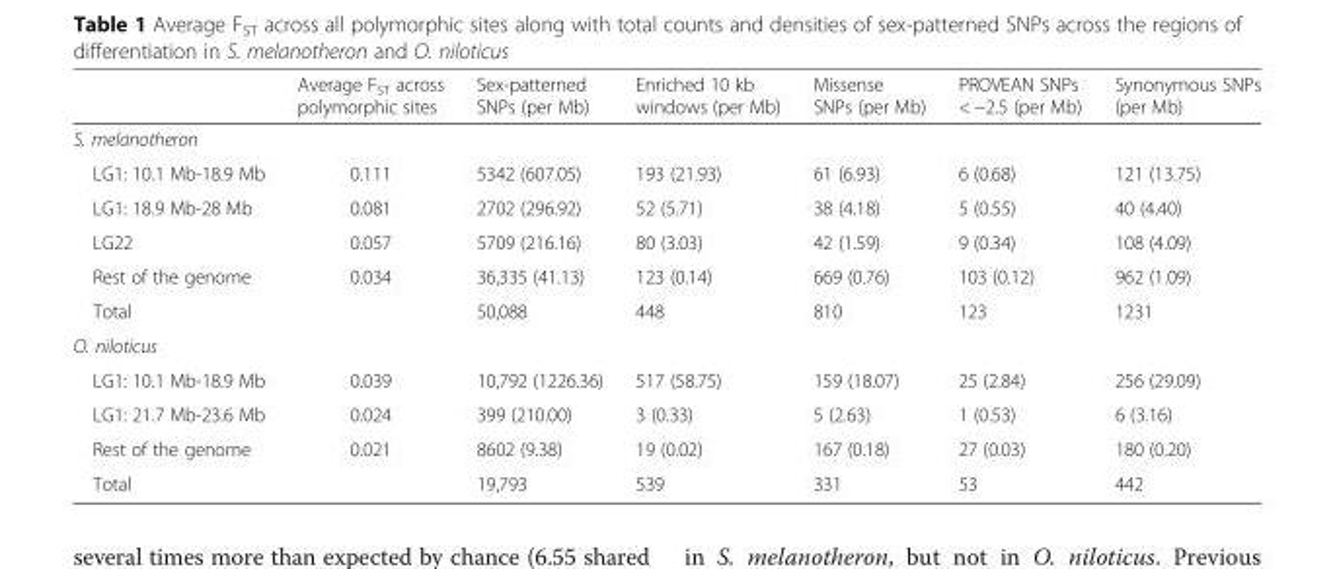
<table><thead><tr><td></td><td>Average F<sub>ST</sub> across polymorphic sites</td><td>Sex-patterned SNPs (per Mb)</td><td>Enriched 10 kb windows (per Mb)</td><td>Missense SNPs (per Mb)</td><td>PROVEAN SNPs &lt; −2.5 (per Mb)</td><td>Synonymous SNPs (per Mb)</td></tr></thead><tbody><tr><td colspan="7">S. melanotheron</td></tr><tr><td>LG1: 10.1 Mb-18.9 Mb</td><td>0.111</td><td>5342 (607.05)</td><td>193 (21.93)</td><td>61 (6.93)</td><td>6 (0.68)</td><td>121 (13.75)</td></tr><tr><td>LG1: 18.9 Mb-28 Mb</td><td>0.081</td><td>2702 (296.92)</td><td>52 (5.71)</td><td>38 (4.18)</td><td>5 (0.55)</td><td>40 (4.40)</td></tr><tr><td>LG22</td><td>0.057</td><td>5709 (216.16)</td><td>80 (3.03)</td><td>42 (1.59)</td><td>9 (0.34)</td><td>108 (4.09)</td></tr><tr><td>Rest of the genome</td><td>0.034</td><td>36,335 (41.13)</td><td>123 (0.14)</td><td>669 (0.76)</td><td>103 (0.12)</td><td>962 (1.09)</td></tr><tr><td>Total</td><td></td><td>50,088</td><td>448</td><td>810</td><td>123</td><td>1231</td></tr><tr><td colspan="7">O. niloticus</td></tr><tr><td>LG1: 10.1 Mb-18.9 Mb</td><td>0.039</td><td>10,792 (1226.36)</td><td>517 (58.75)</td><td>159 (18.07)</td><td>25 (2.84)</td><td>256 (29.09)</td></tr><tr><td>LG1: 21.7 Mb-23.6 Mb</td><td>0.024</td><td>399 (210.00)</td><td>3 (0.33)</td><td>5 (2.63)</td><td>1 (0.53)</td><td>6 (3.16)</td></tr><tr><td>Rest of the genome</td><td>0.021</td><td>8602 (9.38)</td><td>19 (0.02)</td><td>167 (0.18)</td><td>27 (0.03)</td><td>180 (0.20)</td></tr><tr><td>Total</td><td></td><td>19,793</td><td>539</td><td>331</td><td>53</td><td>442</td></tr></tbody></table>